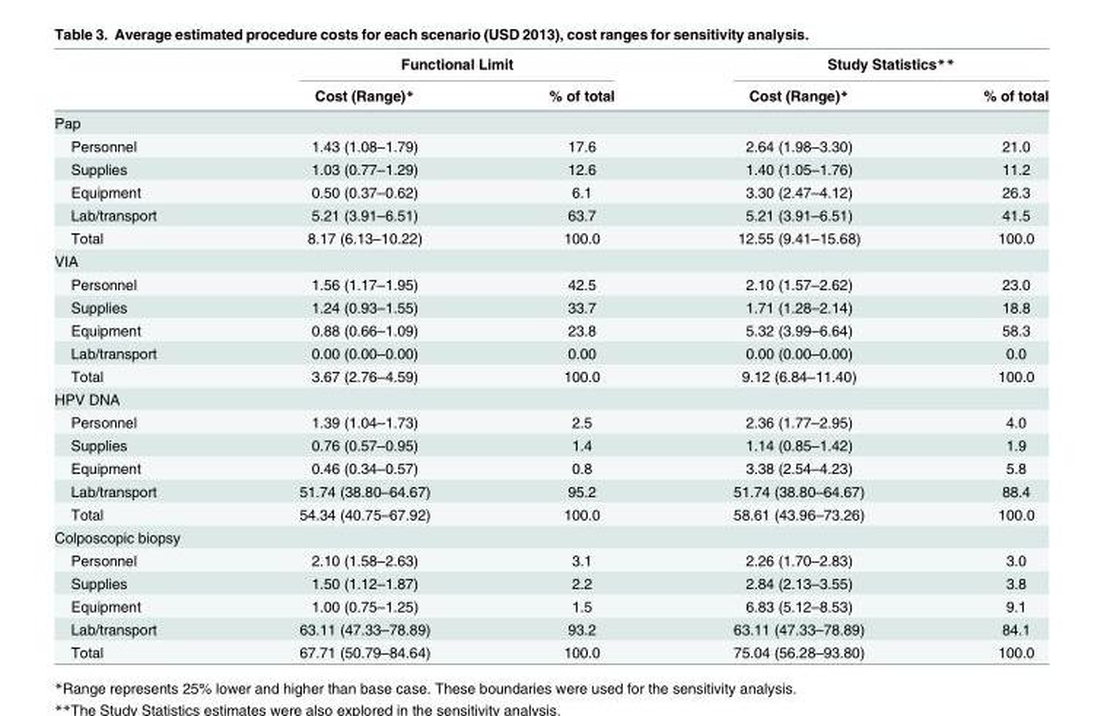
<table><thead><tr><td rowspan="2"></td><td colspan="2">Functional Limit</td><td colspan="2">Study Statistics**</td></tr><tr><td>Cost (Range)*</td><td>% of total</td><td>Cost (Range)*</td><td>% of total</td></tr></thead><tbody><tr><td colspan="5">Pap</td></tr><tr><td>Personnel</td><td>1.43 (1.08–1.79)</td><td>17.6</td><td>2.64 (1.98–3.30)</td><td>21.0</td></tr><tr><td>Supplies</td><td>1.03 (0.77–1.29)</td><td>12.6</td><td>1.40 (1.05–1.76)</td><td>11.2</td></tr><tr><td>Equipment</td><td>0.50 (0.37–0.62)</td><td>6.1</td><td>3.30 (2.47–4.12)</td><td>26.3</td></tr><tr><td>Lab/transport</td><td>5.21 (3.91–6.51)</td><td>63.7</td><td>5.21 (3.91–6.51)</td><td>41.5</td></tr><tr><td>Total</td><td>8.17 (6.13–10.22)</td><td>100.0</td><td>12.55 (9.41–15.68)</td><td>100.0</td></tr><tr><td colspan="5">VIA</td></tr><tr><td>Personnel</td><td>1.56 (1.17–1.95)</td><td>42.5</td><td>2.10 (1.57–2.62)</td><td>23.0</td></tr><tr><td>Supplies</td><td>1.24 (0.93–1.55)</td><td>33.7</td><td>1.71 (1.28–2.14)</td><td>18.8</td></tr><tr><td>Equipment</td><td>0.88 (0.66–1.09)</td><td>23.8</td><td>5.32 (3.99–6.64)</td><td>58.3</td></tr><tr><td>Lab/transport</td><td>0.00 (0.00–0.00)</td><td>0.00</td><td>0.00 (0.00–0.00)</td><td>0.0</td></tr><tr><td>Total</td><td>3.67 (2.76–4.59)</td><td>100.0</td><td>9.12 (6.84–11.40)</td><td>100.0</td></tr><tr><td colspan="5">HPV DNA</td></tr><tr><td>Personnel</td><td>1.39 (1.04–1.73)</td><td>2.5</td><td>2.36 (1.77–2.95)</td><td>4.0</td></tr><tr><td>Supplies</td><td>0.76 (0.57–0.95)</td><td>1.4</td><td>1.14 (0.85–1.42)</td><td>1.9</td></tr><tr><td>Equipment</td><td>0.46 (0.34–0.57)</td><td>0.8</td><td>3.38 (2.54–4.23)</td><td>5.8</td></tr><tr><td>Lab/transport</td><td>51.74 (38.80–64.67)</td><td>95.2</td><td>51.74 (38.80–64.67)</td><td>88.4</td></tr><tr><td>Total</td><td>54.34 (40.75–67.92)</td><td>100.0</td><td>58.61 (43.96–73.26)</td><td>100.0</td></tr><tr><td colspan="5">Colposcopic biopsy</td></tr><tr><td>Personnel</td><td>2.10 (1.58–2.63)</td><td>3.1</td><td>2.26 (1.70–2.83)</td><td>3.0</td></tr><tr><td>Supplies</td><td>1.50 (1.12–1.87)</td><td>2.2</td><td>2.84 (2.13–3.55)</td><td>3.8</td></tr><tr><td>Equipment</td><td>1.00 (0.75–1.25)</td><td>1.5</td><td>6.83 (5.12–8.53)</td><td>9.1</td></tr><tr><td>Lab/transport</td><td>63.11 (47.33–78.89)</td><td>93.2</td><td>63.11 (47.33–78.89)</td><td>84.1</td></tr><tr><td>Total</td><td>67.71 (50.79–84.64)</td><td>100.0</td><td>75.04 (56.28–93.80)</td><td>100.0</td></tr></tbody></table>